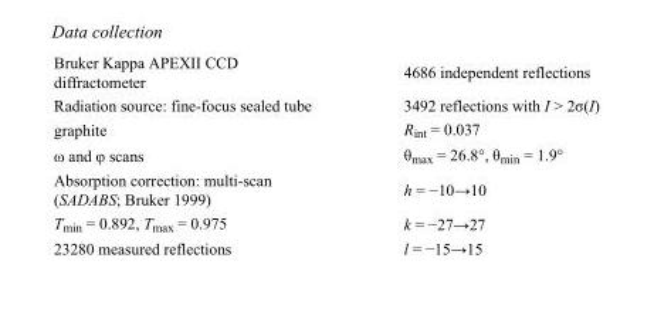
<table><tbody><tr><td>Bruker Kappa APEXII CCD diffractometer</td><td>4686 independent reflections</td></tr><tr><td>Radiation source: fine-focus sealed tube</td><td>3492 reflections with I &gt; 2σ(I)</td></tr><tr><td>graphite</td><td>R<sub>int</sub> = 0.037</td></tr><tr><td>ω and φ scans</td><td>θ<sub>max</sub> = 26.8°, θ<sub>min</sub> = 1.9°</td></tr><tr><td>Absorption correction: multi-scan (SADABS; Bruker 1999)</td><td>h = −10→10</td></tr><tr><td>T<sub>min</sub> = 0.892, T<sub>max</sub> = 0.975</td><td>k = −27→27</td></tr><tr><td>23280 measured reflections</td><td>l = −15→15</td></tr></tbody></table>